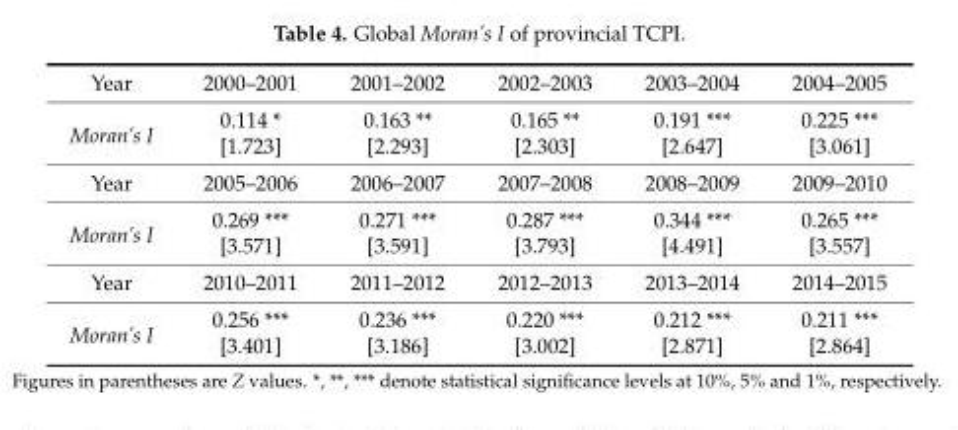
<table><tbody><tr><td>Year</td><td>2000–2001</td><td>2001–2002</td><td>2002–2003</td><td>2003–2004</td><td>2004–2005</td></tr><tr><td rowspan="2">Moran’s I</td><td>0.114 *</td><td>0.163 **</td><td>0.165 **</td><td>0.191 ***</td><td>0.225 ***</td></tr><tr><td>[1.723]</td><td>[2.293]</td><td>[2.303]</td><td>[2.647]</td><td>[3.061]</td></tr><tr><td>Year</td><td>2005–2006</td><td>2006–2007</td><td>2007–2008</td><td>2008–2009</td><td>2009–2010</td></tr><tr><td rowspan="2">Moran’s I</td><td>0.269 ***</td><td>0.271 ***</td><td>0.287 ***</td><td>0.344 ***</td><td>0.265 ***</td></tr><tr><td>[3.571]</td><td>[3.591]</td><td>[3.793]</td><td>[4.491]</td><td>[3.557]</td></tr><tr><td>Year</td><td>2010–2011</td><td>2011–2012</td><td>2012–2013</td><td>2013–2014</td><td>2014–2015</td></tr><tr><td rowspan="2">Moran’s I</td><td>0.256 ***</td><td>0.236 ***</td><td>0.220 ***</td><td>0.212 ***</td><td>0.211 ***</td></tr><tr><td>[3.401]</td><td>[3.186]</td><td>[3.002]</td><td>[2.871]</td><td>[2.864]</td></tr></tbody></table>